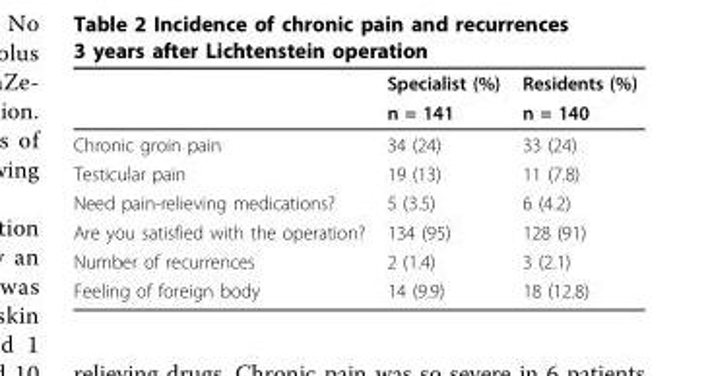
<table><thead><tr><td rowspan="2"></td><td rowspan="2">Specialist (%) n = 141</td><td rowspan="2">Residents (%) n = 140</td></tr><tr></tr></thead><tbody><tr><td>Chronic groin pain</td><td>34 (24)</td><td>33 (24)</td></tr><tr><td>Testicular pain</td><td>19 (13)</td><td>11 (7.8)</td></tr><tr><td>Need pain-relieving medications?</td><td>5 (3.5)</td><td>6 (4.2)</td></tr><tr><td>Are you satisfied with the operation?</td><td>134 (95)</td><td>128 (91)</td></tr><tr><td>Number of recurrences</td><td>2 (1.4)</td><td>3 (2.1)</td></tr><tr><td>Feeling of foreign body</td><td>14 (9.9)</td><td>18 (12.8)</td></tr></tbody></table>